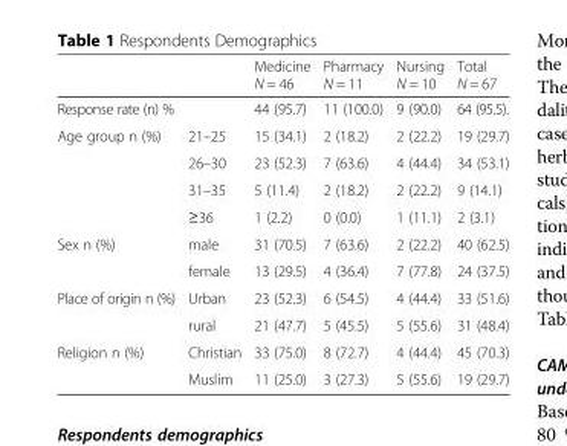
<table><thead><tr><td></td><td></td><td>Medicine N = 46</td><td>Pharmacy N = 11</td><td>Nursing N = 10</td><td>Total N = 67</td></tr></thead><tbody><tr><td>Response rate (n) %</td><td></td><td>44 (95.7)</td><td>11 (100.0)</td><td>9 (90.0)</td><td>64 (95.5).</td></tr><tr><td rowspan="4">Age group n (%)</td><td>21–25</td><td>15 (34.1)</td><td>2 (18.2)</td><td>2 (22.2)</td><td>19 (29.7)</td></tr><tr><td>26–30</td><td>23 (52.3)</td><td>7 (63.6)</td><td>4 (44.4)</td><td>34 (53.1)</td></tr><tr><td>31–35</td><td>5 (11.4)</td><td>2 (18.2)</td><td>2 (22.2)</td><td>9 (14.1)</td></tr><tr><td>≥36</td><td>1 (2.2)</td><td>0 (0.0)</td><td>1 (11.1)</td><td>2 (3.1)</td></tr><tr><td rowspan="2">Sex n (%)</td><td>male</td><td>31 (70.5)</td><td>7 (63.6)</td><td>2 (22.2)</td><td>40 (62.5)</td></tr><tr><td>female</td><td>13 (29.5)</td><td>4 (36.4)</td><td>7 (77.8)</td><td>24 (37.5)</td></tr><tr><td rowspan="2">Place of origin n (%)</td><td>Urban</td><td>23 (52.3)</td><td>6 (54.5)</td><td>4 (44.4)</td><td>33 (51.6)</td></tr><tr><td>rural</td><td>21 (47.7)</td><td>5 (45.5)</td><td>5 (55.6)</td><td>31 (48.4)</td></tr><tr><td rowspan="2">Religion n (%)</td><td>Christian</td><td>33 (75.0)</td><td>8 (72.7)</td><td>4 (44.4)</td><td>45 (70.3)</td></tr><tr><td>Muslim</td><td>11 (25.0)</td><td>3 (27.3)</td><td>5 (55.6)</td><td>19 (29.7)</td></tr></tbody></table>